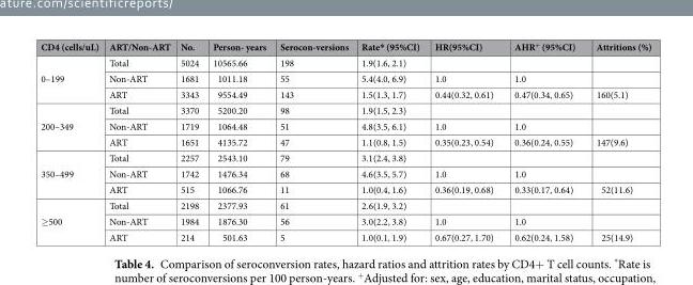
<table><thead><tr><td>CD4 (cells/uL)</td><td>ART/Non-ART</td><td>No.</td><td>Person- years</td><td>Serocon-versions</td><td>Rate* (95%CI)</td><td>HR(95%CI)</td><td>AHR<sup>+</sup> (95%CI)</td><td>Attritions (%)</td></tr></thead><tbody><tr><td rowspan="3">0–199</td><td>Total</td><td>5024</td><td>10565.66</td><td>198</td><td>1.9(1.6, 2.1)</td><td></td><td></td><td></td></tr><tr><td>Non-ART</td><td>1681</td><td>1011.18</td><td>55</td><td>5.4(4.0, 6.9)</td><td>1.0</td><td>1.0</td><td></td></tr><tr><td>ART</td><td>3343</td><td>9554.49</td><td>143</td><td>1.5(1.3, 1.7)</td><td>0.44(0.32, 0.61)</td><td>0.47(0.34, 0.65)</td><td>160(5.1)</td></tr><tr><td rowspan="3">200–349</td><td>Total</td><td>3370</td><td>5200.20</td><td>98</td><td>1.9(1.5, 2.3)</td><td></td><td></td><td></td></tr><tr><td>Non-ART</td><td>1719</td><td>1064.48</td><td>51</td><td>4.8(3.5, 6.1)</td><td>1.0</td><td>1.0</td><td></td></tr><tr><td>ART</td><td>1651</td><td>4135.72</td><td>47</td><td>1.1(0.8, 1.5)</td><td>0.35(0.23, 0.54)</td><td>0.36(0.24, 0.55)</td><td>147(9.6)</td></tr><tr><td rowspan="3">350–499</td><td>Total</td><td>2257</td><td>2543.10</td><td>79</td><td>3.1(2.4, 3.8)</td><td></td><td></td><td></td></tr><tr><td>Non-ART</td><td>1742</td><td>1476.34</td><td>68</td><td>4.6(3.5, 5.7)</td><td>1.0</td><td>1.0</td><td></td></tr><tr><td>ART</td><td>515</td><td>1066.76</td><td>11</td><td>1.0(0.4, 1.6)</td><td>0.36(0.19, 0.68)</td><td>0.33(0.17, 0.64)</td><td>52(11.6)</td></tr><tr><td rowspan="3">≥500</td><td>Total</td><td>2198</td><td>2377.93</td><td>61</td><td>2.6(1.9, 3.2)</td><td></td><td></td><td></td></tr><tr><td>Non-ART</td><td>1984</td><td>1876.30</td><td>56</td><td>3.0(2.2, 3.8)</td><td>1.0</td><td>1.0</td><td></td></tr><tr><td>ART</td><td>214</td><td>501.63</td><td>5</td><td>1.0(0.1, 1.9)</td><td>0.67(0.27, 1.70)</td><td>0.62(0.24, 1.58)</td><td>25(14.9)</td></tr></tbody></table>